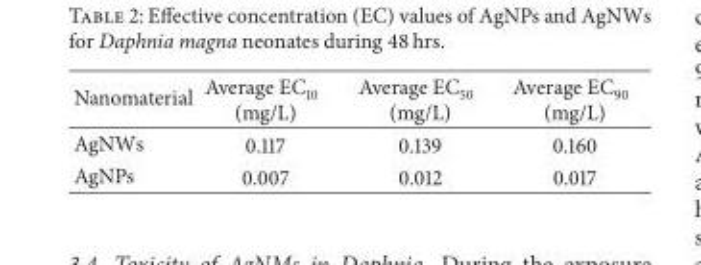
<table><thead><tr><td>Nanomaterial</td><td>Average EC<sub>10</sub> (mg/L)</td><td>Average EC<sub>50</sub> (mg/L)</td><td>Average EC<sub>90</sub> (mg/L)</td></tr></thead><tbody><tr><td>AgNWs</td><td>0.117</td><td>0.139</td><td>0.160</td></tr><tr><td>AgNPs</td><td>0.007</td><td>0.012</td><td>0.017</td></tr></tbody></table>